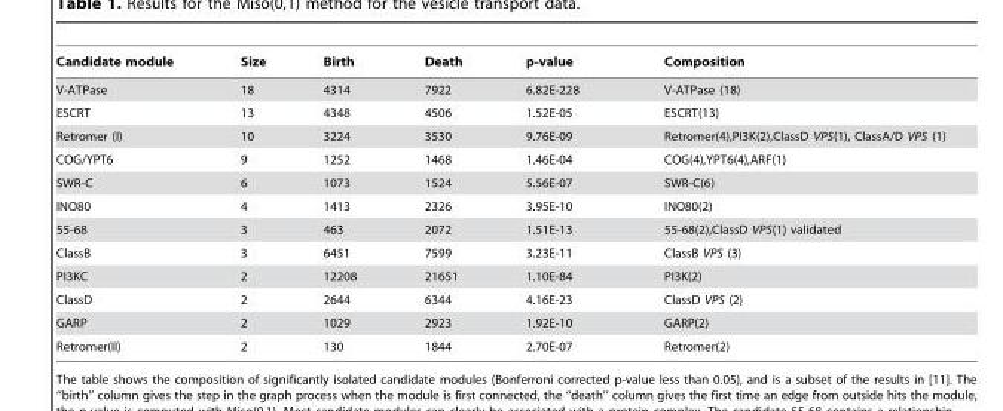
<table><thead><tr><td>Candidate module</td><td>Size</td><td>Birth</td><td>Death</td><td>p-value</td><td>Composition</td></tr></thead><tbody><tr><td>V-ATPase</td><td>18</td><td>4314</td><td>7922</td><td>6.82E-228</td><td>V-ATPase (18)</td></tr><tr><td>ESCRT</td><td>13</td><td>4348</td><td>4506</td><td>1.52E-05</td><td>ESCRT(13)</td></tr><tr><td>Retromer (I)</td><td>10</td><td>3224</td><td>3530</td><td>9.76E-09</td><td>Retromer(4),PI3K(2),ClassD VPS(1), ClassA/D VPS (1)</td></tr><tr><td>COG/YPT6</td><td>9</td><td>1252</td><td>1468</td><td>1.46E-04</td><td>COG(4),YPT6(4),ARF(1)</td></tr><tr><td>SWR-C</td><td>6</td><td>1073</td><td>1524</td><td>5.56E-07</td><td>SWR-C(6)</td></tr><tr><td>INO80</td><td>4</td><td>1413</td><td>2326</td><td>3.95E-10</td><td>INO80(2)</td></tr><tr><td>55-68</td><td>3</td><td>463</td><td>2072</td><td>1.51E-13</td><td>55-68(2),ClassD VPS(1) validated</td></tr><tr><td>ClassB</td><td>3</td><td>6451</td><td>7599</td><td>3.23E-11</td><td>ClassB VPS (3)</td></tr><tr><td>PI3KC</td><td>2</td><td>12208</td><td>21651</td><td>1.10E-84</td><td>PI3K(2)</td></tr><tr><td>ClassD</td><td>2</td><td>2644</td><td>6344</td><td>4.16E-23</td><td>ClassD VPS (2)</td></tr><tr><td>GARP</td><td>2</td><td>1029</td><td>2923</td><td>1.92E-10</td><td>GARP(2)</td></tr><tr><td>Retromer(II)</td><td>2</td><td>130</td><td>1844</td><td>2.70E-07</td><td>Retromer(2)</td></tr></tbody></table>